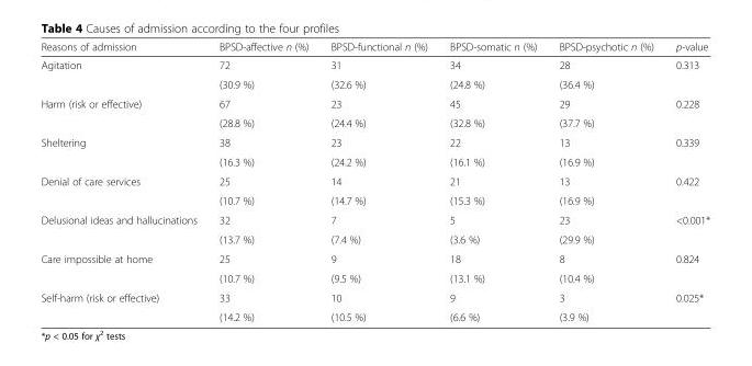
<table><thead><tr><td>Reasons of admission</td><td>BPSD-affective n (%)</td><td>BPSD-functional n (%)</td><td>BPSD-somatic n (%)</td><td>BPSD-psychotic n (%)</td><td>p-value</td></tr></thead><tbody><tr><td rowspan="2">Agitation</td><td>72</td><td>31</td><td>34</td><td>28</td><td rowspan="2">0.313</td></tr><tr><td>(30.9 %)</td><td>(32.6 %)</td><td>(24.8 %)</td><td>(36.4 %)</td></tr><tr><td rowspan="2">Harm (risk or effective)</td><td>67</td><td>23</td><td>45</td><td>29</td><td rowspan="2">0.228</td></tr><tr><td>(28.8 %)</td><td>(24.4 %)</td><td>(32.8 %)</td><td>(37.7 %)</td></tr><tr><td rowspan="2">Sheltering</td><td>38</td><td>23</td><td>22</td><td>13</td><td rowspan="2">0.339</td></tr><tr><td>(16.3 %)</td><td>(24.2 %)</td><td>(16.1 %)</td><td>(16.9 %)</td></tr><tr><td rowspan="2">Denial of care services</td><td>25</td><td>14</td><td>21</td><td>13</td><td rowspan="2">0.422</td></tr><tr><td>(10.7 %)</td><td>(14.7 %)</td><td>(15.3 %)</td><td>(16.9 %)</td></tr><tr><td rowspan="2">Delusional ideas and hallucinations</td><td>32</td><td>7</td><td>5</td><td>23</td><td rowspan="2">&lt;0.001*</td></tr><tr><td>(13.7 %)</td><td>(7.4 %)</td><td>(3.6 %)</td><td>(29.9 %)</td></tr><tr><td rowspan="2">Care impossible at home</td><td>25</td><td>9</td><td>18</td><td>8</td><td rowspan="2">0.824</td></tr><tr><td>(10.7 %)</td><td>(9.5 %)</td><td>(13.1 %)</td><td>(10.4 %)</td></tr><tr><td rowspan="2">Self-harm (risk or effective)</td><td>33</td><td>10</td><td>9</td><td>3</td><td rowspan="2">0.025*</td></tr><tr><td>(14.2 %)</td><td>(10.5 %)</td><td>(6.6 %)</td><td>(3.9 %)</td></tr></tbody></table>